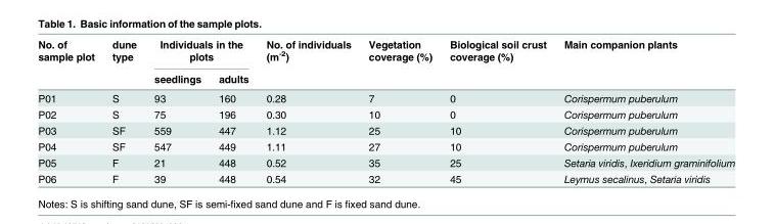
<table><thead><tr><td rowspan="2">No. of sample plot</td><td rowspan="2">dune type</td><td colspan="2">Individuals in the plots</td><td rowspan="2">No. of individuals (m<sup>-2</sup>)</td><td rowspan="2">Vegetation coverage (%)</td><td rowspan="2">Biological soil crust coverage (%)</td><td rowspan="2">Main companion plants</td></tr><tr><td>seedlings</td><td>adults</td></tr></thead><tbody><tr><td>P01</td><td>S</td><td>93</td><td>160</td><td>0.28</td><td>7</td><td>0</td><td>Corispermum puberulum</td></tr><tr><td>P02</td><td>S</td><td>75</td><td>196</td><td>0.30</td><td>10</td><td>0</td><td>Corispermum puberulum</td></tr><tr><td>P03</td><td>SF</td><td>559</td><td>447</td><td>1.12</td><td>25</td><td>10</td><td>Corispermum puberulum</td></tr><tr><td>P04</td><td>SF</td><td>547</td><td>449</td><td>1.11</td><td>27</td><td>10</td><td>Corispermum puberulum</td></tr><tr><td>P05</td><td>F</td><td>21</td><td>448</td><td>0.52</td><td>35</td><td>25</td><td>Setaria viridis, Ixeridium graminifolium</td></tr><tr><td>P06</td><td>F</td><td>39</td><td>448</td><td>0.54</td><td>32</td><td>45</td><td>Leymus secalinus, Setaria viridis</td></tr></tbody></table>